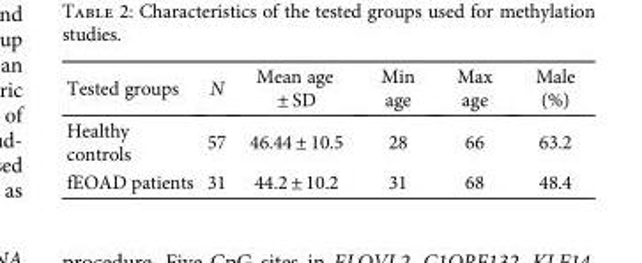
<table><thead><tr><td>Tested groups</td><td>N</td><td>Mean age ± SD</td><td>Min age</td><td>Max age</td><td>Male (%)</td></tr></thead><tbody><tr><td>Healthy controls</td><td>57</td><td>46.44 ± 10.5</td><td>28</td><td>66</td><td>63.2</td></tr><tr><td>fEOAD patients</td><td>31</td><td>44.2 ± 10.2</td><td>31</td><td>68</td><td>48.4</td></tr></tbody></table>